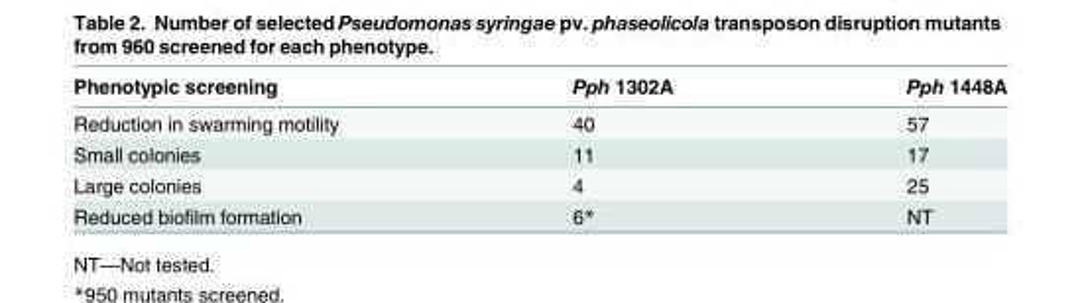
<table><thead><tr><td>Phenotypic screening</td><td>Pph 1302A</td><td>Pph 1448A</td></tr></thead><tbody><tr><td>Reduction in swarming motility</td><td>40</td><td>57</td></tr><tr><td>Small colonies</td><td>11</td><td>17</td></tr><tr><td>Large colonies</td><td>4</td><td>25</td></tr><tr><td>Reduced biofilm formation</td><td>6*</td><td>NT</td></tr></tbody></table>